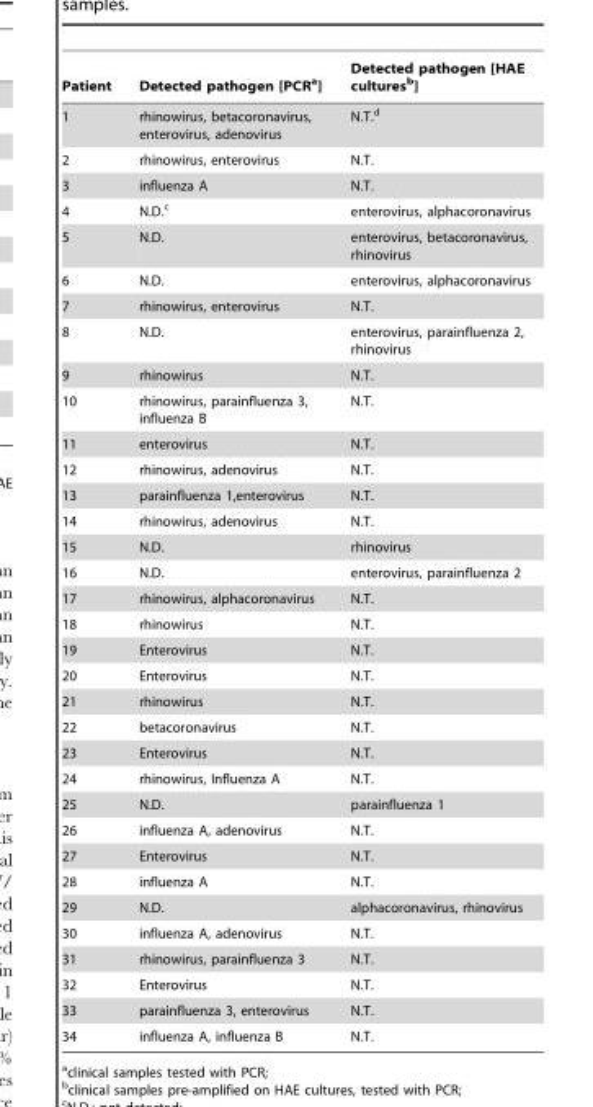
<table><thead><tr><td>Patient</td><td>Detected pathogen [PCR<sup>a</sup>]</td><td>Detected pathogen [HAE cultures<sup>b</sup>]</td></tr></thead><tbody><tr><td>1</td><td>rhinowirus, betacoronavirus, enterovirus, adenovirus</td><td>N.T.<sup>d</sup></td></tr><tr><td>2</td><td>rhinowirus, enterovirus</td><td>N.T.</td></tr><tr><td>3</td><td>influenza A</td><td>N.T.</td></tr><tr><td>4</td><td>N.D.<sup>c</sup></td><td>enterovirus, alphacoronavirus</td></tr><tr><td>5</td><td>N.D.</td><td>enterovirus, betacoronavirus, rhinovirus</td></tr><tr><td>6</td><td>N.D.</td><td>enterovirus, alphacoronavirus</td></tr><tr><td>7</td><td>rhinowirus, enterovirus</td><td>N.T.</td></tr><tr><td>8</td><td>N.D.</td><td>enterovirus, parainfluenza 2, rhinovirus</td></tr><tr><td>9</td><td>rhinowirus</td><td>N.T.</td></tr><tr><td>10</td><td>rhinowirus, parainfluenza 3, influenza B</td><td>N.T.</td></tr><tr><td>11</td><td>enterovirus</td><td>N.T.</td></tr><tr><td>12</td><td>rhinowirus, adenovirus</td><td>N.T.</td></tr><tr><td>13</td><td>parainfluenza 1,enterovirus</td><td>N.T.</td></tr><tr><td>14</td><td>rhinowirus, adenovirus</td><td>N.T.</td></tr><tr><td>15</td><td>N.D.</td><td>rhinovirus</td></tr><tr><td>16</td><td>N.D.</td><td>enterovirus, parainfluenza 2</td></tr><tr><td>17</td><td>rhinowirus, alphacoronavirus</td><td>N.T.</td></tr><tr><td>18</td><td>rhinowirus</td><td>N.T.</td></tr><tr><td>19</td><td>Enterovirus</td><td>N.T.</td></tr><tr><td>20</td><td>Enterovirus</td><td>N.T.</td></tr><tr><td>21</td><td>rhinowirus</td><td>N.T.</td></tr><tr><td>22</td><td>betacoronavirus</td><td>N.T.</td></tr><tr><td>23</td><td>Enterovirus</td><td>N.T.</td></tr><tr><td>24</td><td>rhinowirus, Influenza A</td><td>N.T.</td></tr><tr><td>25</td><td>N.D.</td><td>parainfluenza 1</td></tr><tr><td>26</td><td>influenza A, adenovirus</td><td>N.T.</td></tr><tr><td>27</td><td>Enterovirus</td><td>N.T.</td></tr><tr><td>28</td><td>influenza A</td><td>N.T.</td></tr><tr><td>29</td><td>N.D.</td><td>alphacoronavirus, rhinovirus</td></tr><tr><td>30</td><td>influenza A, adenovirus</td><td>N.T.</td></tr><tr><td>31</td><td>rhinowirus, parainfluenza 3</td><td>N.T.</td></tr><tr><td>32</td><td>Enterovirus</td><td>N.T.</td></tr><tr><td>33</td><td>parainfluenza 3, enterovirus</td><td>N.T.</td></tr><tr><td>34</td><td>influenza A, influenza B</td><td>N.T.</td></tr></tbody></table>